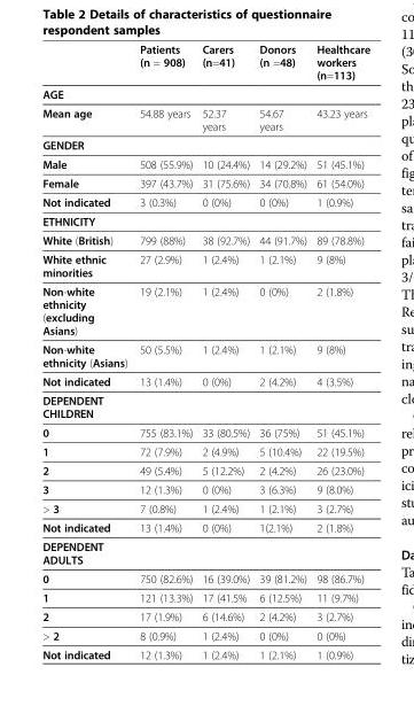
<table><thead><tr><td></td><td>Patients (n = 908)</td><td>Carers (n=41)</td><td>Donors (n =48)</td><td>Healthcare workers (n=113)</td></tr></thead><tbody><tr><td colspan="5">AGE</td></tr><tr><td>Mean age</td><td>54.88 years</td><td>52.37 years</td><td>54.67 years</td><td>43.23 years</td></tr><tr><td colspan="5">GENDER</td></tr><tr><td>Male</td><td>508 (55.9%)</td><td>10 (24.4%)</td><td>14 (29.2%)</td><td>51 (45.1%)</td></tr><tr><td>Female</td><td>397 (43.7%)</td><td>31 (75.6%)</td><td>34 (70.8%)</td><td>61 (54.0%)</td></tr><tr><td>Not indicated</td><td>3 (0.3%)</td><td>0 (0%)</td><td>0 (0%)</td><td>1 (0.9%)</td></tr><tr><td colspan="5">ETHNICITY</td></tr><tr><td>White (British)</td><td>799 (88%)</td><td>38 (92.7%)</td><td>44 (91.7%)</td><td>89 (78.8%)</td></tr><tr><td>White ethnic minorities</td><td>27 (2.9%)</td><td>1 (2.4%)</td><td>1 (2.1%)</td><td>9 (8%)</td></tr><tr><td>Non-white ethnicity (excluding Asians)</td><td>19 (2.1%)</td><td>1 (2.4%)</td><td>0 (0%)</td><td>2 (1.8%)</td></tr><tr><td>Non-white ethnicity (Asians)</td><td>50 (5.5%)</td><td>1 (2.4%)</td><td>1 (2.1%)</td><td>9 (8%)</td></tr><tr><td>Not indicated</td><td>13 (1.4%)</td><td>0 (0%)</td><td>2 (4.2%)</td><td>4 (3.5%)</td></tr><tr><td colspan="5">DEPENDENT CHILDREN</td></tr><tr><td>0</td><td>755 (83.1%)</td><td>33 (80.5%)</td><td>36 (75%)</td><td>51 (45.1%)</td></tr><tr><td>1</td><td>72 (7.9%)</td><td>2 (4.9%)</td><td>5 (10.4%)</td><td>22 (19.5%)</td></tr><tr><td>2</td><td>49 (5.4%)</td><td>5 (12.2%)</td><td>2 (4.2%)</td><td>26 (23.0%)</td></tr><tr><td>3</td><td>12 (1.3%)</td><td>0 (0%)</td><td>3 (6.3%)</td><td>9 (8.0%)</td></tr><tr><td>&gt; 3</td><td>7 (0.8%)</td><td>1 (2.4%)</td><td>1 (2.1%)</td><td>3 (2.7%)</td></tr><tr><td>Not indicated</td><td>13 (1.4%)</td><td>0 (0%)</td><td>1(2.1%)</td><td>2 (1.8%)</td></tr><tr><td colspan="5">DEPENDENT ADULTS</td></tr><tr><td>0</td><td>750 (82.6%)</td><td>16 (39.0%)</td><td>39 (81.2%)</td><td>98 (86.7%)</td></tr><tr><td>1</td><td>121 (13.3%)</td><td>17 (41.5%</td><td>6 (12.5%)</td><td>11 (9.7%)</td></tr><tr><td>2</td><td>17 (1.9%)</td><td>6 (14.6%)</td><td>2 (4.2%)</td><td>3 (2.7%)</td></tr><tr><td>&gt; 2</td><td>8 (0.9%)</td><td>1 (2.4%)</td><td>0 (0%)</td><td>0 (0%)</td></tr><tr><td>Not indicated</td><td>12 (1.3%)</td><td>1 (2.4%)</td><td>1 (2.1%)</td><td>1 (0.9%)</td></tr></tbody></table>